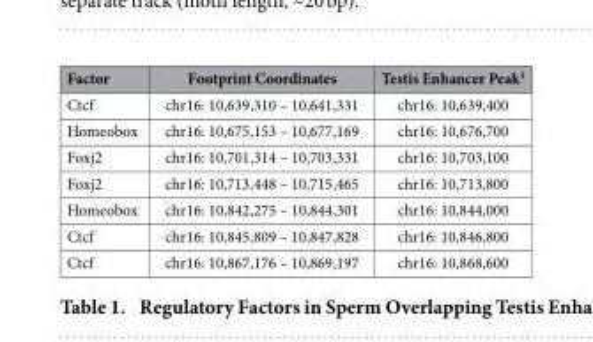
<table><thead><tr><td>Factor</td><td>Footprint Coordinates</td><td>Testis Enhancer Peak<sup>1</sup></td></tr></thead><tbody><tr><td>Ctcf</td><td>chr16: 10,639,310 – 10,641,331</td><td>chr16: 10,639,400</td></tr><tr><td>Homeobox</td><td>chr16: 10,675,153 – 10,677,169</td><td>chr16: 10,676,700</td></tr><tr><td>Foxj2</td><td>chr16: 10,701,314 – 10,703,331</td><td>chr16: 10,703,100</td></tr><tr><td>Foxj2</td><td>chr16: 10,713,448 – 10,715,465</td><td>chr16: 10,713,800</td></tr><tr><td>Homeobox</td><td>chr16: 10,842,275 – 10,844,301</td><td>chr16: 10,844,000</td></tr><tr><td>Ctcf</td><td>chr16: 10,845,809 – 10,847,828</td><td>chr16: 10,846,800</td></tr><tr><td>Ctcf</td><td>chr16: 10,867,176 – 10,869,197</td><td>chr16: 10,868,600</td></tr></tbody></table>